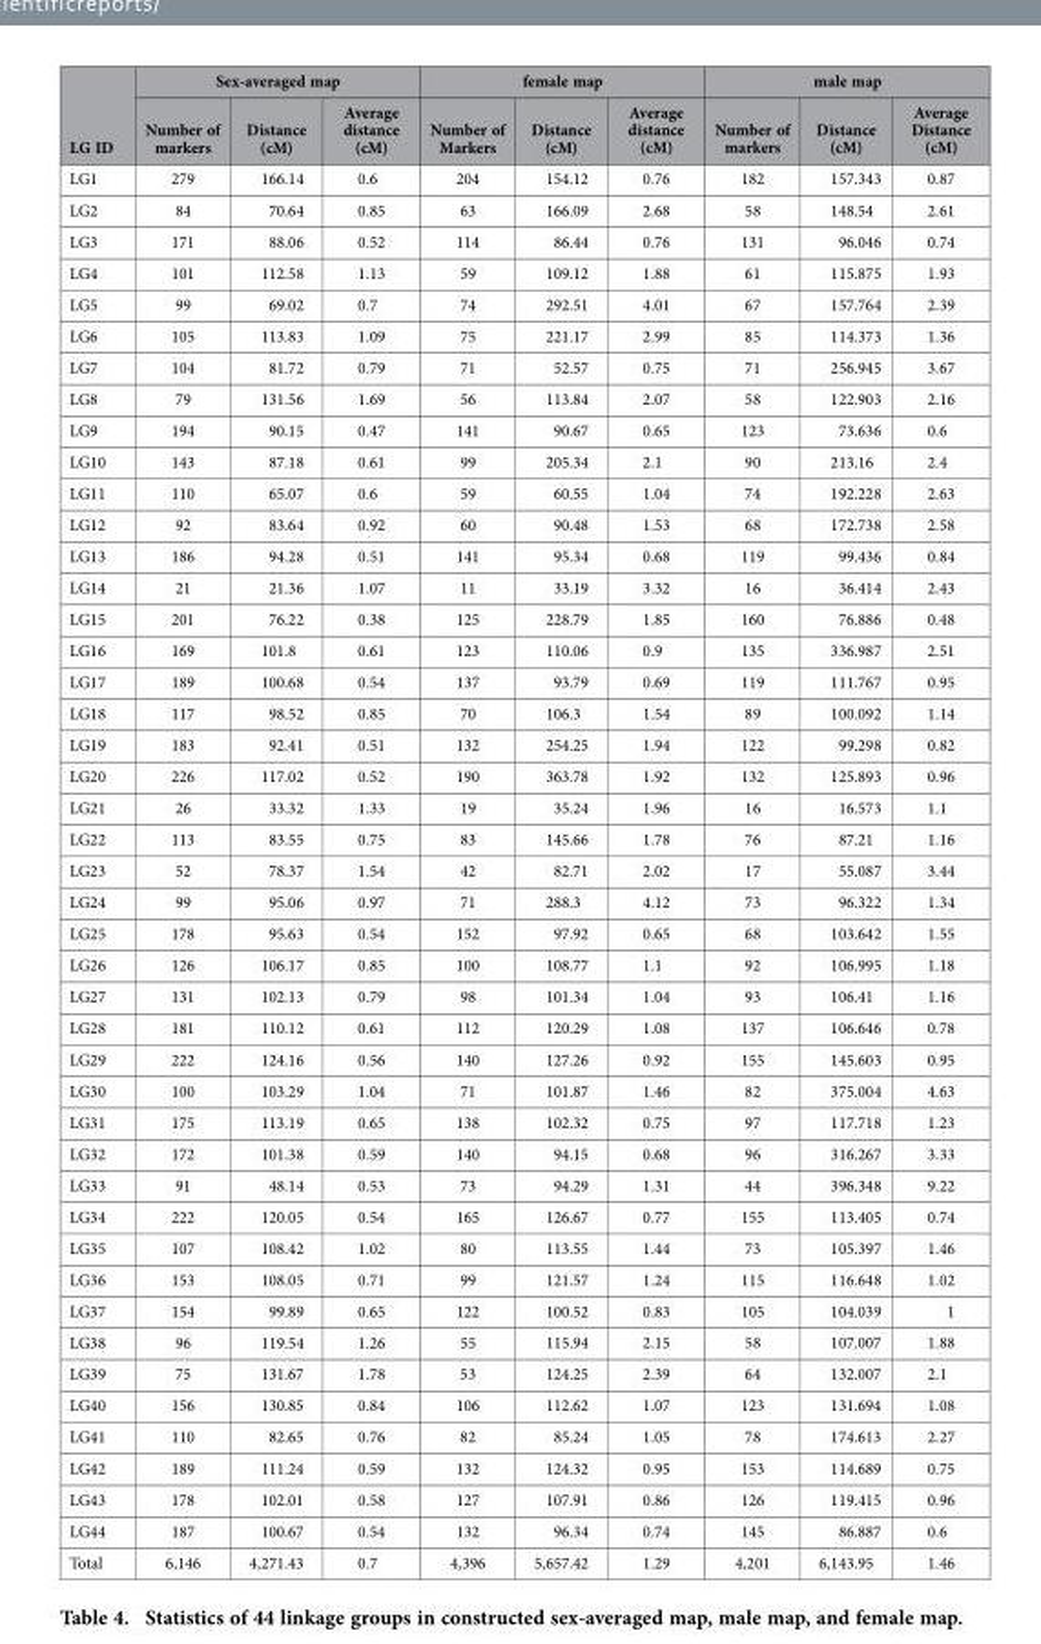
<table><thead><tr><td rowspan="2">LG ID</td><td colspan="3">Sex-averaged map</td><td colspan="3">female map</td><td colspan="3">male map</td></tr><tr><td>Number of markers</td><td>Distance (cM)</td><td>Average distance (cM)</td><td>Number of Markers</td><td>Distance (cM)</td><td>Average distance (cM)</td><td>Number of markers</td><td>Distance (cM)</td><td>Average Distance (cM)</td></tr></thead><tbody><tr><td>LG1</td><td>279</td><td>166.14</td><td>0.6</td><td>204</td><td>154.12</td><td>0.76</td><td>182</td><td>157.343</td><td>0.87</td></tr><tr><td>LG2</td><td>84</td><td>70.64</td><td>0.85</td><td>63</td><td>166.09</td><td>2.68</td><td>58</td><td>148.54</td><td>2.61</td></tr><tr><td>LG3</td><td>171</td><td>88.06</td><td>0.52</td><td>114</td><td>86.44</td><td>0.76</td><td>131</td><td>96.046</td><td>0.74</td></tr><tr><td>LG4</td><td>101</td><td>112.58</td><td>1.13</td><td>59</td><td>109.12</td><td>1.88</td><td>61</td><td>115.875</td><td>1.93</td></tr><tr><td>LG5</td><td>99</td><td>69.02</td><td>0.7</td><td>74</td><td>292.51</td><td>4.01</td><td>67</td><td>157.764</td><td>2.39</td></tr><tr><td>LG6</td><td>105</td><td>113.83</td><td>1.09</td><td>75</td><td>221.17</td><td>2.99</td><td>85</td><td>114.373</td><td>1.36</td></tr><tr><td>LG7</td><td>104</td><td>81.72</td><td>0.79</td><td>71</td><td>52.57</td><td>0.75</td><td>71</td><td>256.945</td><td>3.67</td></tr><tr><td>LG8</td><td>79</td><td>131.56</td><td>1.69</td><td>56</td><td>113.84</td><td>2.07</td><td>58</td><td>122.903</td><td>2.16</td></tr><tr><td>LG9</td><td>194</td><td>90.15</td><td>0.47</td><td>141</td><td>90.67</td><td>0.65</td><td>123</td><td>73.636</td><td>0.6</td></tr><tr><td>LG10</td><td>143</td><td>87.18</td><td>0.61</td><td>99</td><td>205.34</td><td>2.1</td><td>90</td><td>213.16</td><td>2.4</td></tr><tr><td>LG11</td><td>110</td><td>65.07</td><td>0.6</td><td>59</td><td>60.55</td><td>1.04</td><td>74</td><td>192.228</td><td>2.63</td></tr><tr><td>LG12</td><td>92</td><td>83.64</td><td>0.92</td><td>60</td><td>90.48</td><td>1.53</td><td>68</td><td>172.738</td><td>2.58</td></tr><tr><td>LG13</td><td>186</td><td>94.28</td><td>0.51</td><td>141</td><td>95.34</td><td>0.68</td><td>119</td><td>99.436</td><td>0.84</td></tr><tr><td>LG14</td><td>21</td><td>21.36</td><td>1.07</td><td>11</td><td>33.19</td><td>3.32</td><td>16</td><td>36.414</td><td>2.43</td></tr><tr><td>LG15</td><td>201</td><td>76.22</td><td>0.38</td><td>125</td><td>228.79</td><td>1.85</td><td>160</td><td>76.886</td><td>0.48</td></tr><tr><td>LG16</td><td>169</td><td>101.8</td><td>0.61</td><td>123</td><td>110.06</td><td>0.9</td><td>135</td><td>336.987</td><td>2.51</td></tr><tr><td>LG17</td><td>189</td><td>100.68</td><td>0.54</td><td>137</td><td>93.79</td><td>0.69</td><td>119</td><td>111.767</td><td>0.95</td></tr><tr><td>LG18</td><td>117</td><td>98.52</td><td>0.85</td><td>70</td><td>106.3</td><td>1.54</td><td>89</td><td>100.092</td><td>1.14</td></tr><tr><td>LG19</td><td>183</td><td>92.41</td><td>0.51</td><td>132</td><td>254.25</td><td>1.94</td><td>122</td><td>99.298</td><td>0.82</td></tr><tr><td>LG20</td><td>226</td><td>117.02</td><td>0.52</td><td>190</td><td>363.78</td><td>1.92</td><td>132</td><td>125.893</td><td>0.96</td></tr><tr><td>LG21</td><td>26</td><td>33.32</td><td>1.33</td><td>19</td><td>35.24</td><td>1.96</td><td>16</td><td>16.573</td><td>1.1</td></tr><tr><td>LG22</td><td>113</td><td>83.55</td><td>0.75</td><td>83</td><td>145.66</td><td>1.78</td><td>76</td><td>87.21</td><td>1.16</td></tr><tr><td>LG23</td><td>52</td><td>78.37</td><td>1.54</td><td>42</td><td>82.71</td><td>2.02</td><td>17</td><td>55.087</td><td>3.44</td></tr><tr><td>LG24</td><td>99</td><td>95.06</td><td>0.97</td><td>71</td><td>288.3</td><td>4.12</td><td>73</td><td>96.322</td><td>1.34</td></tr><tr><td>LG25</td><td>178</td><td>95.63</td><td>0.54</td><td>152</td><td>97.92</td><td>0.65</td><td>68</td><td>103.642</td><td>1.55</td></tr><tr><td>LG26</td><td>126</td><td>106.17</td><td>0.85</td><td>100</td><td>108.77</td><td>1.1</td><td>92</td><td>106.995</td><td>1.18</td></tr><tr><td>LG27</td><td>131</td><td>102.13</td><td>0.79</td><td>98</td><td>101.34</td><td>1.04</td><td>93</td><td>106.41</td><td>1.16</td></tr><tr><td>LG28</td><td>181</td><td>110.12</td><td>0.61</td><td>112</td><td>120.29</td><td>1.08</td><td>137</td><td>106.646</td><td>0.78</td></tr><tr><td>LG29</td><td>222</td><td>124.16</td><td>0.56</td><td>140</td><td>127.26</td><td>0.92</td><td>155</td><td>145.603</td><td>0.95</td></tr><tr><td>LG30</td><td>100</td><td>103.29</td><td>1.04</td><td>71</td><td>101.87</td><td>1.46</td><td>82</td><td>375.004</td><td>4.63</td></tr><tr><td>LG31</td><td>175</td><td>113.19</td><td>0.65</td><td>138</td><td>102.32</td><td>0.75</td><td>97</td><td>117.718</td><td>1.23</td></tr><tr><td>LG32</td><td>172</td><td>101.38</td><td>0.59</td><td>140</td><td>94.15</td><td>0.68</td><td>96</td><td>316.267</td><td>3.33</td></tr><tr><td>LG33</td><td>91</td><td>48.14</td><td>0.53</td><td>73</td><td>94.29</td><td>1.31</td><td>44</td><td>396.348</td><td>9.22</td></tr><tr><td>LG34</td><td>222</td><td>120.05</td><td>0.54</td><td>165</td><td>126.67</td><td>0.77</td><td>155</td><td>113.405</td><td>0.74</td></tr><tr><td>LG35</td><td>107</td><td>108.42</td><td>1.02</td><td>80</td><td>113.55</td><td>1.44</td><td>73</td><td>105.397</td><td>1.46</td></tr><tr><td>LG36</td><td>153</td><td>108.05</td><td>0.71</td><td>99</td><td>121.57</td><td>1.24</td><td>115</td><td>116.648</td><td>1.02</td></tr><tr><td>LG37</td><td>154</td><td>99.89</td><td>0.65</td><td>122</td><td>100.52</td><td>0.83</td><td>105</td><td>104.039</td><td>1</td></tr><tr><td>LG38</td><td>96</td><td>119.54</td><td>1.26</td><td>55</td><td>115.94</td><td>2.15</td><td>58</td><td>107.007</td><td>1.88</td></tr><tr><td>LG39</td><td>75</td><td>131.67</td><td>1.78</td><td>53</td><td>124.25</td><td>2.39</td><td>64</td><td>132.007</td><td>2.1</td></tr><tr><td>LG40</td><td>156</td><td>130.85</td><td>0.84</td><td>106</td><td>112.62</td><td>1.07</td><td>123</td><td>131.694</td><td>1.08</td></tr><tr><td>LG41</td><td>110</td><td>82.65</td><td>0.76</td><td>82</td><td>85.24</td><td>1.05</td><td>78</td><td>174.613</td><td>2.27</td></tr><tr><td>LG42</td><td>189</td><td>111.24</td><td>0.59</td><td>132</td><td>124.32</td><td>0.95</td><td>153</td><td>114.689</td><td>0.75</td></tr><tr><td>LG43</td><td>178</td><td>102.01</td><td>0.58</td><td>127</td><td>107.91</td><td>0.86</td><td>126</td><td>119.415</td><td>0.96</td></tr><tr><td>LG44</td><td>187</td><td>100.67</td><td>0.54</td><td>132</td><td>96.34</td><td>0.74</td><td>145</td><td>86.887</td><td>0.6</td></tr><tr><td>Total</td><td>6,146</td><td>4,271.43</td><td>0.7</td><td>4,396</td><td>5,657.42</td><td>1.29</td><td>4,201</td><td>6,143.95</td><td>1.46</td></tr></tbody></table>